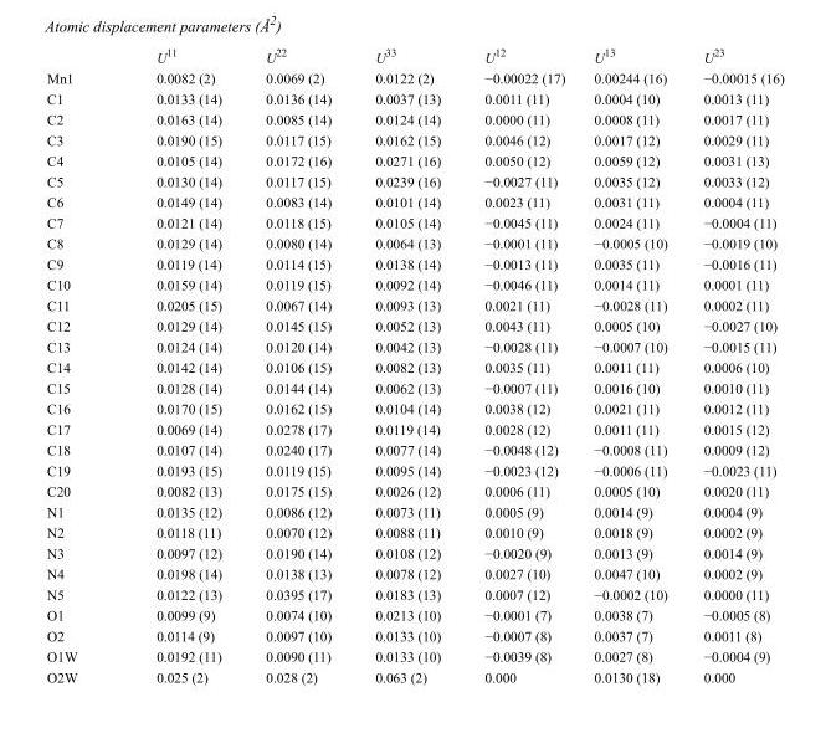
<table><thead><tr><td></td><td>U<sup>11</sup></td><td>U<sup>22</sup></td><td>U<sup>33</sup></td><td>U<sup>12</sup></td><td>U<sup>13</sup></td><td>U<sup>23</sup></td></tr></thead><tbody><tr><td>Mn1</td><td>0.0082 (2)</td><td>0.0069 (2)</td><td>0.0122 (2)</td><td>−0.00022 (17)</td><td>0.00244 (16)</td><td>−0.00015 (16)</td></tr><tr><td>C1</td><td>0.0133 (14)</td><td>0.0136 (14)</td><td>0.0037 (13)</td><td>0.0011 (11)</td><td>0.0004 (10)</td><td>0.0013 (11)</td></tr><tr><td>C2</td><td>0.0163 (14)</td><td>0.0085 (14)</td><td>0.0124 (14)</td><td>0.0000 (11)</td><td>0.0008 (11)</td><td>0.0017 (11)</td></tr><tr><td>C3</td><td>0.0190 (15)</td><td>0.0117 (15)</td><td>0.0162 (15)</td><td>0.0046 (12)</td><td>0.0017 (12)</td><td>0.0029 (11)</td></tr><tr><td>C4</td><td>0.0105 (14)</td><td>0.0172 (16)</td><td>0.0271 (16)</td><td>0.0050 (12)</td><td>0.0059 (12)</td><td>0.0031 (13)</td></tr><tr><td>C5</td><td>0.0130 (14)</td><td>0.0117 (15)</td><td>0.0239 (16)</td><td>−0.0027 (11)</td><td>0.0035 (12)</td><td>0.0033 (12)</td></tr><tr><td>C6</td><td>0.0149 (14)</td><td>0.0083 (14)</td><td>0.0101 (14)</td><td>0.0023 (11)</td><td>0.0031 (11)</td><td>0.0004 (11)</td></tr><tr><td>C7</td><td>0.0121 (14)</td><td>0.0118 (15)</td><td>0.0105 (14)</td><td>−0.0045 (11)</td><td>0.0024 (11)</td><td>−0.0004 (11)</td></tr><tr><td>C8</td><td>0.0129 (14)</td><td>0.0080 (14)</td><td>0.0064 (13)</td><td>−0.0001 (11)</td><td>−0.0005 (10)</td><td>−0.0019 (10)</td></tr><tr><td>C9</td><td>0.0119 (14)</td><td>0.0114 (15)</td><td>0.0138 (14)</td><td>−0.0013 (11)</td><td>0.0035 (11)</td><td>−0.0016 (11)</td></tr><tr><td>C10</td><td>0.0159 (14)</td><td>0.0119 (15)</td><td>0.0092 (14)</td><td>−0.0046 (11)</td><td>0.0014 (11)</td><td>0.0001 (11)</td></tr><tr><td>C11</td><td>0.0205 (15)</td><td>0.0067 (14)</td><td>0.0093 (13)</td><td>0.0021 (11)</td><td>−0.0028 (11)</td><td>0.0002 (11)</td></tr><tr><td>C12</td><td>0.0129 (14)</td><td>0.0145 (15)</td><td>0.0052 (13)</td><td>0.0043 (11)</td><td>0.0005 (10)</td><td>−0.0027 (10)</td></tr><tr><td>C13</td><td>0.0124 (14)</td><td>0.0120 (14)</td><td>0.0042 (13)</td><td>−0.0028 (11)</td><td>−0.0007 (10)</td><td>−0.0015 (11)</td></tr><tr><td>C14</td><td>0.0142 (14)</td><td>0.0106 (15)</td><td>0.0082 (13)</td><td>0.0035 (11)</td><td>0.0011 (11)</td><td>0.0006 (10)</td></tr><tr><td>C15</td><td>0.0128 (14)</td><td>0.0144 (14)</td><td>0.0062 (13)</td><td>−0.0007 (11)</td><td>0.0016 (10)</td><td>0.0010 (11)</td></tr><tr><td>C16</td><td>0.0170 (15)</td><td>0.0162 (15)</td><td>0.0104 (14)</td><td>0.0038 (12)</td><td>0.0021 (11)</td><td>0.0012 (11)</td></tr><tr><td>C17</td><td>0.0069 (14)</td><td>0.0278 (17)</td><td>0.0119 (14)</td><td>0.0028 (12)</td><td>0.0011 (11)</td><td>0.0015 (12)</td></tr><tr><td>C18</td><td>0.0107 (14)</td><td>0.0240 (17)</td><td>0.0077 (14)</td><td>−0.0048 (12)</td><td>−0.0008 (11)</td><td>0.0009 (12)</td></tr><tr><td>C19</td><td>0.0193 (15)</td><td>0.0119 (15)</td><td>0.0095 (14)</td><td>−0.0023 (12)</td><td>−0.0006 (11)</td><td>−0.0023 (11)</td></tr><tr><td>C20</td><td>0.0082 (13)</td><td>0.0175 (15)</td><td>0.0026 (12)</td><td>0.0006 (11)</td><td>0.0005 (10)</td><td>0.0020 (11)</td></tr><tr><td>N1</td><td>0.0135 (12)</td><td>0.0086 (12)</td><td>0.0073 (11)</td><td>0.0005 (9)</td><td>0.0014 (9)</td><td>0.0004 (9)</td></tr><tr><td>N2</td><td>0.0118 (11)</td><td>0.0070 (12)</td><td>0.0088 (11)</td><td>0.0010 (9)</td><td>0.0018 (9)</td><td>0.0002 (9)</td></tr><tr><td>N3</td><td>0.0097 (12)</td><td>0.0190 (14)</td><td>0.0108 (12)</td><td>−0.0020 (9)</td><td>0.0013 (9)</td><td>0.0014 (9)</td></tr><tr><td>N4</td><td>0.0198 (14)</td><td>0.0138 (13)</td><td>0.0078 (12)</td><td>0.0027 (10)</td><td>0.0047 (10)</td><td>0.0002 (9)</td></tr><tr><td>N5</td><td>0.0122 (13)</td><td>0.0395 (17)</td><td>0.0183 (13)</td><td>0.0007 (12)</td><td>−0.0002 (10)</td><td>0.0000 (11)</td></tr><tr><td>O1</td><td>0.0099 (9)</td><td>0.0074 (10)</td><td>0.0213 (10)</td><td>−0.0001 (7)</td><td>0.0038 (7)</td><td>−0.0005 (8)</td></tr><tr><td>O2</td><td>0.0114 (9)</td><td>0.0097 (10)</td><td>0.0133 (10)</td><td>−0.0007 (8)</td><td>0.0037 (7)</td><td>0.0011 (8)</td></tr><tr><td>O1W</td><td>0.0192 (11)</td><td>0.0090 (11)</td><td>0.0133 (10)</td><td>−0.0039 (8)</td><td>0.0027 (8)</td><td>−0.0004 (9)</td></tr><tr><td>O2W</td><td>0.025 (2)</td><td>0.028 (2)</td><td>0.063 (2)</td><td>0.000</td><td>0.0130 (18)</td><td>0.000</td></tr></tbody></table>